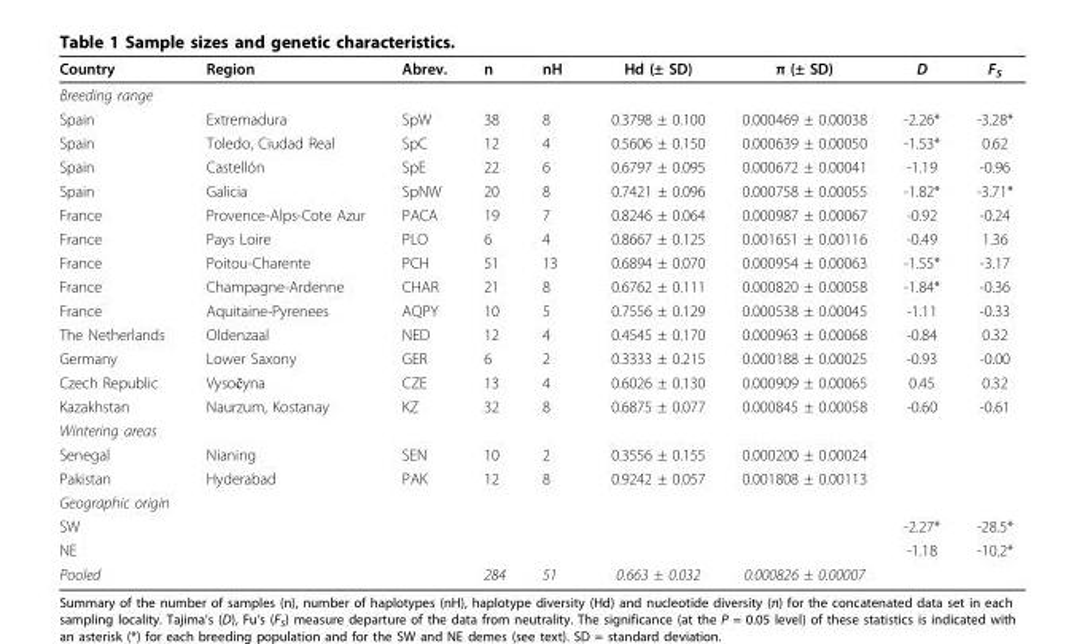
<table><thead><tr><td>Country</td><td>Region</td><td>Abrev.</td><td>n</td><td>nH</td><td>Hd (± SD)</td><td>π (± SD)</td><td>D</td><td>F<sub>S</sub></td></tr></thead><tbody><tr><td colspan="9">Breeding range</td></tr><tr><td>Spain</td><td>Extremadura</td><td>SpW</td><td>38</td><td>8</td><td>0.3798 ± 0.100</td><td>0.000469 ± 0.00038</td><td>-2.26*</td><td>-3.28*</td></tr><tr><td>Spain</td><td>Toledo, Ciudad Real</td><td>SpC</td><td>12</td><td>4</td><td>0.5606 ± 0.150</td><td>0.000639 ± 0.00050</td><td>-1.53*</td><td>0.62</td></tr><tr><td>Spain</td><td>Castellón</td><td>SpE</td><td>22</td><td>6</td><td>0.6797 ± 0.095</td><td>0.000672 ± 0.00041</td><td>-1.19</td><td>-0.96</td></tr><tr><td>Spain</td><td>Galicia</td><td>SpNW</td><td>20</td><td>8</td><td>0.7421 ± 0.096</td><td>0.000758 ± 0.00055</td><td>-1.82*</td><td>-3.71*</td></tr><tr><td>France</td><td>Provence-Alps-Cote Azur</td><td>PACA</td><td>19</td><td>7</td><td>0.8246 ± 0.064</td><td>0.000987 ± 0.00067</td><td>-0.92</td><td>-0.24</td></tr><tr><td>France</td><td>Pays Loire</td><td>PLO</td><td>6</td><td>4</td><td>0.8667 ± 0.125</td><td>0.001651 ± 0.00116</td><td>-0.49</td><td>1.36</td></tr><tr><td>France</td><td>Poitou-Charente</td><td>PCH</td><td>51</td><td>13</td><td>0.6894 ± 0.070</td><td>0.000954 ± 0.00063</td><td>-1.55*</td><td>-3.17</td></tr><tr><td>France</td><td>Champagne-Ardenne</td><td>CHAR</td><td>21</td><td>8</td><td>0.6762 ± 0.111</td><td>0.000820 ± 0.00058</td><td>-1.84*</td><td>-0.36</td></tr><tr><td>France</td><td>Aquitaine-Pyrenees</td><td>AQPY</td><td>10</td><td>5</td><td>0.7556 ± 0.129</td><td>0.000538 ± 0.00045</td><td>-1.11</td><td>-0.33</td></tr><tr><td>The Netherlands</td><td>Oldenzaal</td><td>NED</td><td>12</td><td>4</td><td>0.4545 ± 0.170</td><td>0.000963 ± 0.00068</td><td>-0.84</td><td>0.32</td></tr><tr><td>Germany</td><td>Lower Saxony</td><td>GER</td><td>6</td><td>2</td><td>0.3333 ± 0.215</td><td>0.000188 ± 0.00025</td><td>-0.93</td><td>-0.00</td></tr><tr><td>Czech Republic</td><td>Vysočyna</td><td>CZE</td><td>13</td><td>4</td><td>0.6026 ± 0.130</td><td>0.000909 ± 0.00065</td><td>0.45</td><td>0.32</td></tr><tr><td>Kazakhstan</td><td>Naurzum, Kostanay</td><td>KZ</td><td>32</td><td>8</td><td>0.6875 ± 0.077</td><td>0.000845 ± 0.00058</td><td>-0.60</td><td>-0.61</td></tr><tr><td colspan="9">Wintering areas</td></tr><tr><td>Senegal</td><td>Nianing</td><td>SEN</td><td>10</td><td>2</td><td>0.3556 ± 0.155</td><td>0.000200 ± 0.00024</td><td></td><td></td></tr><tr><td>Pakistan</td><td>Hyderabad</td><td>PAK</td><td>12</td><td>8</td><td>0.9242 ± 0.057</td><td>0.001808 ± 0.00113</td><td></td><td></td></tr><tr><td colspan="9">Geographic origin</td></tr><tr><td>SW</td><td></td><td></td><td></td><td></td><td></td><td></td><td>-2.27*</td><td>-28.5*</td></tr><tr><td>NE</td><td></td><td></td><td></td><td></td><td></td><td></td><td>-1.18</td><td>-10.2*</td></tr><tr><td>Pooled</td><td></td><td></td><td>284</td><td>51</td><td>0.663 ± 0.032</td><td>0.000826 ± 0.00007</td><td></td><td></td></tr></tbody></table>